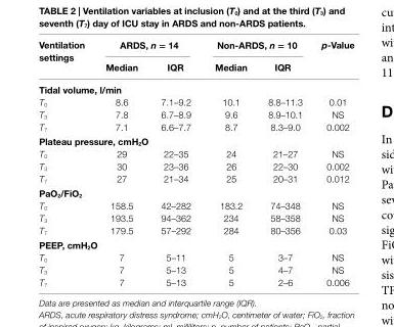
<table><thead><tr><td rowspan="2">Ventilation settings</td><td colspan="2">arDs, n = 14</td><td colspan="2">non-arDs, n = 10</td><td rowspan="2">p-Value</td></tr><tr><td>Median</td><td>iQr</td><td>Median</td><td>iQr</td></tr></thead><tbody><tr><td colspan="6">Tidal volume, l/min</td></tr><tr><td>T<sub>0</sub></td><td>8.6</td><td>7.1–9.2</td><td>10.1</td><td>8.8–11.3</td><td>0.01</td></tr><tr><td>T<sub>3</sub></td><td>7.8</td><td>6.7–8.9</td><td>9.6</td><td>8.9–10.1</td><td>NS</td></tr><tr><td>T<sub>7</sub></td><td>7.1</td><td>6.6–7.7</td><td>8.7</td><td>8.3–9.0</td><td>0.002</td></tr><tr><td colspan="6">Plateau pressure, cmh<sub>2</sub>O</td></tr><tr><td>T<sub>0</sub></td><td>29</td><td>22–35</td><td>24</td><td>21–27</td><td>NS</td></tr><tr><td>T<sub>3</sub></td><td>30</td><td>23–36</td><td>26</td><td>22–30</td><td>0.002</td></tr><tr><td>T<sub>7</sub></td><td>27</td><td>21–34</td><td>25</td><td>20–31</td><td>0.012</td></tr><tr><td colspan="6">PaO<sub>2</sub>/FiO<sub>2</sub></td></tr><tr><td>T<sub>0</sub></td><td>158.5</td><td>42–282</td><td>183.2</td><td>74–348</td><td>NS</td></tr><tr><td>T<sub>3</sub></td><td>193.5</td><td>94–362</td><td>234</td><td>58–358</td><td>NS</td></tr><tr><td>T<sub>7</sub></td><td>179.5</td><td>57–292</td><td>284</td><td>80–356</td><td>0.03</td></tr><tr><td colspan="6">PeeP, cmh<sub>2</sub>O</td></tr><tr><td>T<sub>0</sub></td><td>7</td><td>5–11</td><td>5</td><td>3–7</td><td>NS</td></tr><tr><td>T<sub>3</sub></td><td>7</td><td>5–13</td><td>5</td><td>4–7</td><td>NS</td></tr><tr><td>T<sub>7</sub></td><td>7</td><td>5–13</td><td>5</td><td>2–6</td><td>0.006</td></tr></tbody></table>